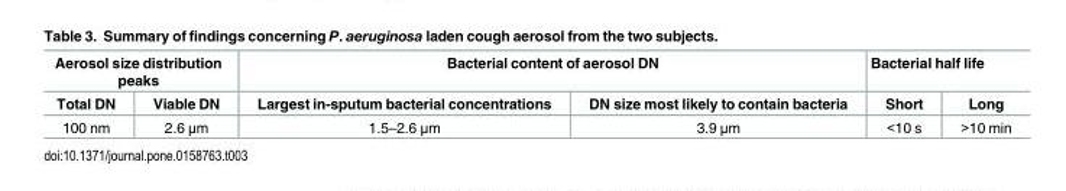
<table><thead><tr><td colspan="2">Aerosol size distribution peaks</td><td colspan="2">Bacterial content of aerosol DN</td><td colspan="2">Bacterial half life</td></tr><tr><td>Total DN</td><td>Viable DN</td><td>Largest in-sputum bacterial concentrations</td><td>DN size most likely to contain bacteria</td><td>Short</td><td>Long</td></tr></thead><tbody><tr><td>100 nm</td><td>2.6 μm</td><td>1.5–2.6 μm</td><td>3.9 μm</td><td>&lt;10 s</td><td>&gt;10 min</td></tr></tbody></table>